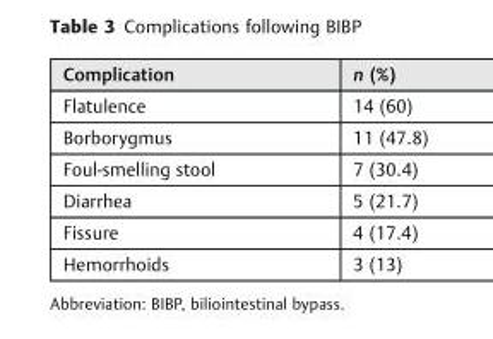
<table><thead><tr><td>Complication</td><td>n (%)</td></tr></thead><tbody><tr><td>Flatulence</td><td>14 (60)</td></tr><tr><td>Borborygmus</td><td>11 (47.8)</td></tr><tr><td>Foul-smelling stool</td><td>7 (30.4)</td></tr><tr><td>Diarrhea</td><td>5 (21.7)</td></tr><tr><td>Fissure</td><td>4 (17.4)</td></tr><tr><td>Hemorrhoids</td><td>3 (13)</td></tr></tbody></table>